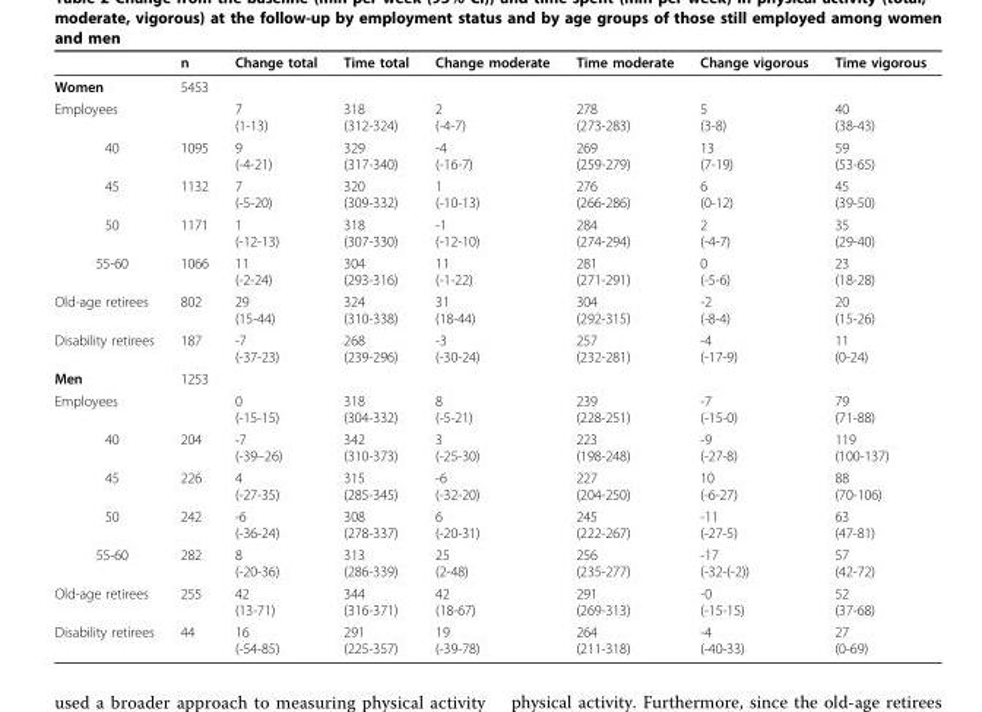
<table><thead><tr><td></td><td>n</td><td>Change total</td><td>Time total</td><td>Change moderate</td><td>Time moderate</td><td>Change vigorous</td><td>Time vigorous</td></tr></thead><tbody><tr><td>Women</td><td>5453</td><td></td><td></td><td></td><td></td><td></td><td></td></tr><tr><td>Employees</td><td></td><td>7 (1-13)</td><td>318 (312-324)</td><td>2 (-4-7)</td><td>278 (273-283)</td><td>5 (3-8)</td><td>40 (38-43)</td></tr><tr><td>40</td><td>1095</td><td>9 (-4-21)</td><td>329 (317-340)</td><td>-4 (-16-7)</td><td>269 (259-279)</td><td>13 (7-19)</td><td>59 (53-65)</td></tr><tr><td>45</td><td>1132</td><td>7 (-5-20)</td><td>320 (309-332)</td><td>1 (-10-13)</td><td>276 (266-286)</td><td>6 (0-12)</td><td>45 (39-50)</td></tr><tr><td>50</td><td>1171</td><td>1 (-12-13)</td><td>318 (307-330)</td><td>-1 (-12-10)</td><td>284 (274-294)</td><td>2 (-4-7)</td><td>35 (29-40)</td></tr><tr><td>55-60</td><td>1066</td><td>11 (-2-24)</td><td>304 (293-316)</td><td>11 (-1-22)</td><td>281 (271-291)</td><td>0 (-5-6)</td><td>23 (18-28)</td></tr><tr><td>Old-age retirees</td><td>802</td><td>29 (15-44)</td><td>324 (310-338)</td><td>31 (18-44)</td><td>304 (292-315)</td><td>-2 (-8-4)</td><td>20 (15-26)</td></tr><tr><td>Disability retirees</td><td>187</td><td>-7 (-37-23)</td><td>268 (239-296)</td><td>-3 (-30-24)</td><td>257 (232-281)</td><td>-4 (-17-9)</td><td>11 (0-24)</td></tr><tr><td>Men</td><td>1253</td><td></td><td></td><td></td><td></td><td></td><td></td></tr><tr><td>Employees</td><td></td><td>0 (-15-15)</td><td>318 (304-332)</td><td>8 (-5-21)</td><td>239 (228-251)</td><td>-7 (-15-0)</td><td>79 (71-88)</td></tr><tr><td>40</td><td>204</td><td>-7 (-39–26)</td><td>342 (310-373)</td><td>3 (-25-30)</td><td>223 (198-248)</td><td>-9 (-27-8)</td><td>119 (100-137)</td></tr><tr><td>45</td><td>226</td><td>4 (-27-35)</td><td>315 (285-345)</td><td>-6 (-32-20)</td><td>227 (204-250)</td><td>10 (-6-27)</td><td>88 (70-106)</td></tr><tr><td>50</td><td>242</td><td>-6 (-36-24)</td><td>308 (278-337)</td><td>6 (-20-31)</td><td>245 (222-267)</td><td>-11 (-27-5)</td><td>63 (47-81)</td></tr><tr><td>55-60</td><td>282</td><td>8 (-20-36)</td><td>313 (286-339)</td><td>25 (2-48)</td><td>256 (235-277)</td><td>-17 (-32-(-2))</td><td>57 (42-72)</td></tr><tr><td>Old-age retirees</td><td>255</td><td>42 (13-71)</td><td>344 (316-371)</td><td>42 (18-67)</td><td>291 (269-313)</td><td>-0 (-15-15)</td><td>52 (37-68)</td></tr><tr><td>Disability retirees</td><td>44</td><td>16 (-54-85)</td><td>291 (225-357)</td><td>19 (-39-78)</td><td>264 (211-318)</td><td>-4 (-40-33)</td><td>27 (0-69)</td></tr></tbody></table>